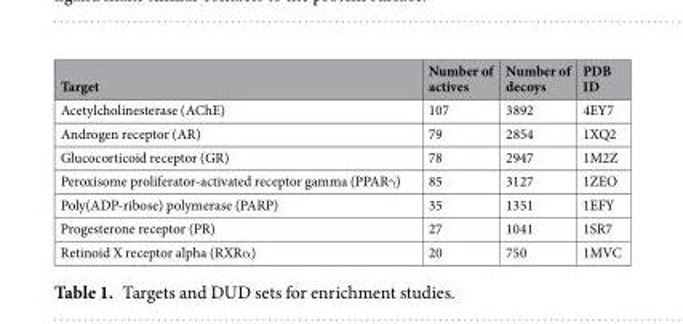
<table><thead><tr><td>Target</td><td>Number of actives</td><td>Number of decoys</td><td>PDB ID</td></tr></thead><tbody><tr><td>Acetylcholinesterase (AChE)</td><td>107</td><td>3892</td><td>4EY7</td></tr><tr><td>Androgen receptor (AR)</td><td>79</td><td>2854</td><td>1XQ2</td></tr><tr><td>Glucocorticoid receptor (GR)</td><td>78</td><td>2947</td><td>1M2Z</td></tr><tr><td>Peroxisome proliferator-activated receptor gamma (PPARγ)</td><td>85</td><td>3127</td><td>1ZEO</td></tr><tr><td>Poly(ADP-ribose) polymerase (PARP)</td><td>35</td><td>1351</td><td>1EFY</td></tr><tr><td>Progesterone receptor (PR)</td><td>27</td><td>1041</td><td>1SR7</td></tr><tr><td>Retinoid X receptor alpha (RXRα)</td><td>20</td><td>750</td><td>1MVC</td></tr></tbody></table>